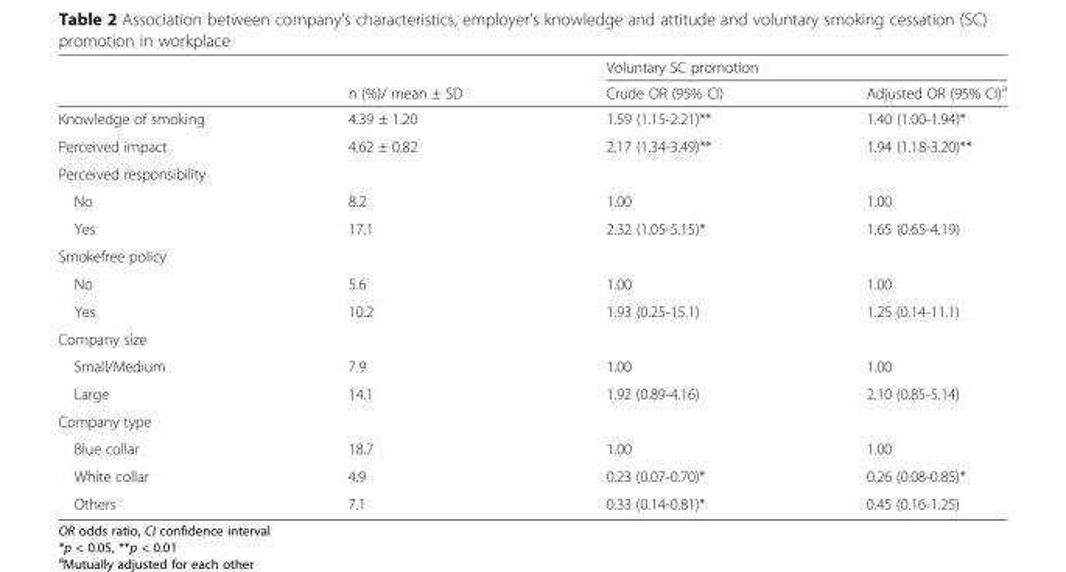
<table><thead><tr><td rowspan="2"></td><td rowspan="2">n (%)/ mean ± SD</td><td colspan="2">Voluntary SC promotion</td></tr><tr><td>Crude OR (95% CI)</td><td>Adjusted OR (95% CI)<sup>a</sup></td></tr></thead><tbody><tr><td>Knowledge of smoking</td><td>4.39 ± 1.20</td><td>1.59 (1.15-2.21)**</td><td>1.40 (1.00-1.94)*</td></tr><tr><td>Perceived impact</td><td>4.62 ± 0.82</td><td>2.17 (1.34-3.49)**</td><td>1.94 (1.18-3.20)**</td></tr><tr><td colspan="4">Perceived responsibility</td></tr><tr><td>No</td><td>8.2</td><td>1.00</td><td>1.00</td></tr><tr><td>Yes</td><td>17.1</td><td>2.32 (1.05-5.15)*</td><td>1.65 (0.65-4.19)</td></tr><tr><td colspan="4">Smokefree policy</td></tr><tr><td>No</td><td>5.6</td><td>1.00</td><td>1.00</td></tr><tr><td>Yes</td><td>10.2</td><td>1.93 (0.25-15.1)</td><td>1.25 (0.14-11.1)</td></tr><tr><td colspan="4">Company size</td></tr><tr><td>Small/Medium</td><td>7.9</td><td>1.00</td><td>1.00</td></tr><tr><td>Large</td><td>14.1</td><td>1.92 (0.89-4.16)</td><td>2.10 (0.85-5.14)</td></tr><tr><td colspan="4">Company type</td></tr><tr><td>Blue collar</td><td>18.7</td><td>1.00</td><td>1.00</td></tr><tr><td>White collar</td><td>4.9</td><td>0.23 (0.07-0.70)*</td><td>0.26 (0.08-0.85)*</td></tr><tr><td>Others</td><td>7.1</td><td>0.33 (0.14-0.81)*</td><td>0.45 (0.16-1.25)</td></tr></tbody></table>